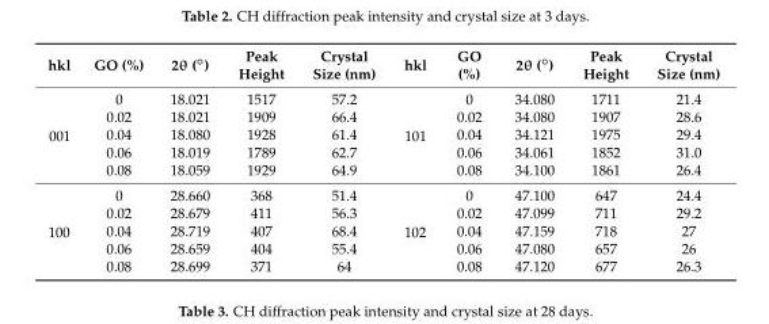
<table><thead><tr><td>hkl</td><td>GO (%)</td><td>2θ (◦)</td><td>Peak Height</td><td>Crystal Size (nm)</td><td>hkl</td><td>GO (%)</td><td>2θ (◦)</td><td>Peak Height</td><td>Crystal Size (nm)</td></tr></thead><tbody><tr><td rowspan="5">001</td><td>0</td><td>18.021</td><td>1517</td><td>57.2</td><td rowspan="5">101</td><td>0</td><td>34.080</td><td>1711</td><td>21.4</td></tr><tr><td>0.02</td><td>18.021</td><td>1909</td><td>66.4</td><td>0.02</td><td>34.080</td><td>1907</td><td>28.6</td></tr><tr><td>0.04</td><td>18.080</td><td>1928</td><td>61.4</td><td>0.04</td><td>34.121</td><td>1975</td><td>29.4</td></tr><tr><td>0.06</td><td>18.019</td><td>1789</td><td>62.7</td><td>0.06</td><td>34.061</td><td>1852</td><td>31.0</td></tr><tr><td>0.08</td><td>18.059</td><td>1929</td><td>64.9</td><td>0.08</td><td>34.100</td><td>1861</td><td>26.4</td></tr><tr><td rowspan="5">100</td><td>0</td><td>28.660</td><td>368</td><td>51.4</td><td rowspan="5">102</td><td>0</td><td>47.100</td><td>647</td><td>24.4</td></tr><tr><td>0.02</td><td>28.679</td><td>411</td><td>56.3</td><td>0.02</td><td>47.099</td><td>711</td><td>29.2</td></tr><tr><td>0.04</td><td>28.719</td><td>407</td><td>68.4</td><td>0.04</td><td>47.159</td><td>718</td><td>27</td></tr><tr><td>0.06</td><td>28.659</td><td>404</td><td>55.4</td><td>0.06</td><td>47.080</td><td>657</td><td>26</td></tr><tr><td>0.08</td><td>28.699</td><td>371</td><td>64</td><td>0.08</td><td>47.120</td><td>677</td><td>26.3</td></tr></tbody></table>